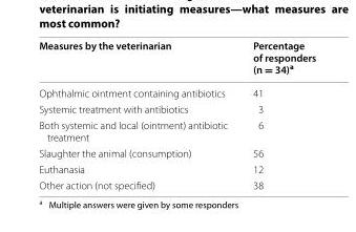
<table><thead><tr><td>Measures by the veterinarian</td><td>Percentage of responders (n = 34)<sup>a</sup></td></tr></thead><tbody><tr><td>Ophthalmic ointment containing antibiotics</td><td>41</td></tr><tr><td>Systemic treatment with antibiotics</td><td>3</td></tr><tr><td>Both systemic and local (ointment) antibiotic treatment</td><td>6</td></tr><tr><td>Slaughter the animal (consumption)</td><td>56</td></tr><tr><td>Euthanasia</td><td>12</td></tr><tr><td>Other action (not specified)</td><td>38</td></tr></tbody></table>